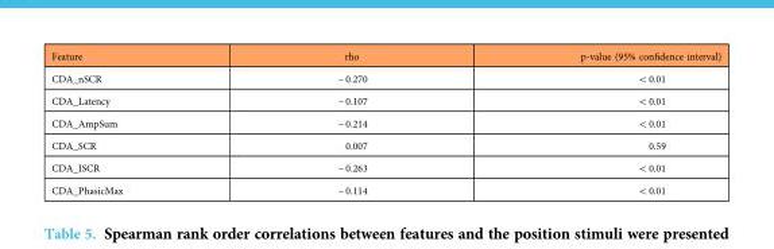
<table><thead><tr><td>Feature</td><td>rho</td><td>p-value (95% confidence interval)</td></tr></thead><tbody><tr><td>CDA_nSCR</td><td>− 0.270</td><td>&lt;0.01</td></tr><tr><td>CDA_Latency</td><td>− 0.107</td><td>&lt;0.01</td></tr><tr><td>CDA_AmpSum</td><td>− 0.214</td><td>&lt;0.01</td></tr><tr><td>CDA_SCR</td><td>0.007</td><td>0.59</td></tr><tr><td>CDA_ISCR</td><td>− 0.263</td><td>&lt;0.01</td></tr><tr><td>CDA_PhasicMax</td><td>− 0.114</td><td>&lt;0.01</td></tr></tbody></table>